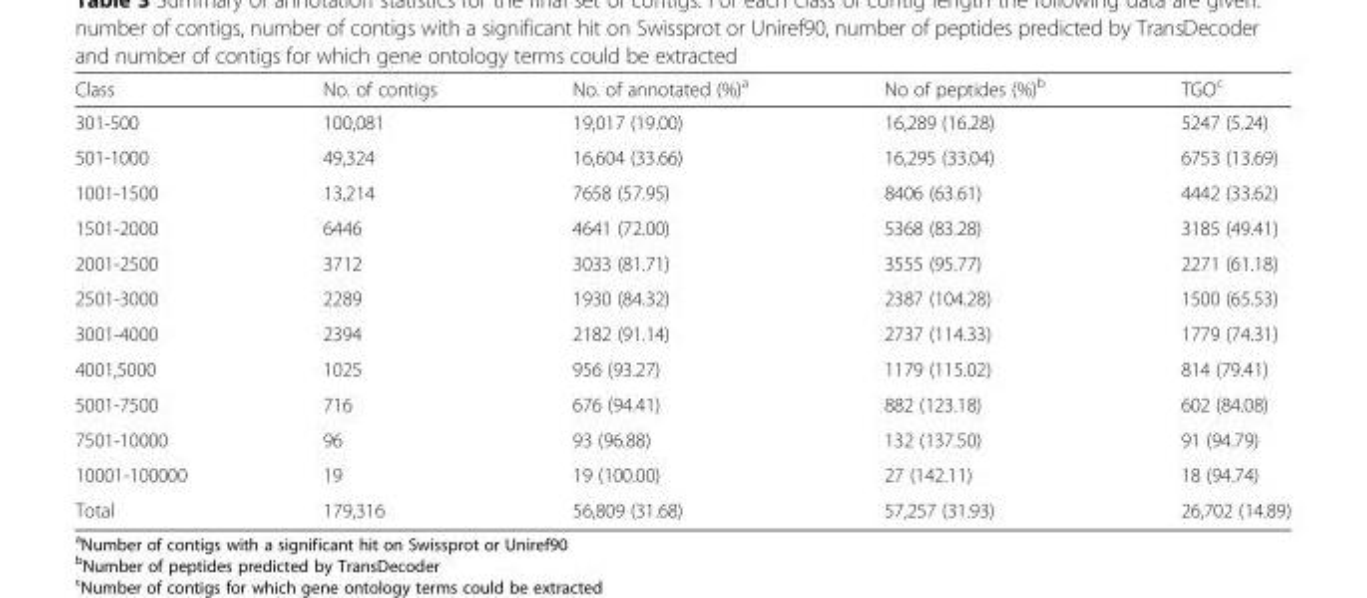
<table><thead><tr><td>Class</td><td>No. of contigs</td><td>No. of annotated (%)<sup>a</sup></td><td>No of peptides (%)<sup>b</sup></td><td>TGO<sup>c</sup></td></tr></thead><tbody><tr><td>301-500</td><td>100,081</td><td>19,017 (19.00)</td><td>16,289 (16.28)</td><td>5247 (5.24)</td></tr><tr><td>501-1000</td><td>49,324</td><td>16,604 (33.66)</td><td>16,295 (33.04)</td><td>6753 (13.69)</td></tr><tr><td>1001-1500</td><td>13,214</td><td>7658 (57.95)</td><td>8406 (63.61)</td><td>4442 (33.62)</td></tr><tr><td>1501-2000</td><td>6446</td><td>4641 (72.00)</td><td>5368 (83.28)</td><td>3185 (49.41)</td></tr><tr><td>2001-2500</td><td>3712</td><td>3033 (81.71)</td><td>3555 (95.77)</td><td>2271 (61.18)</td></tr><tr><td>2501-3000</td><td>2289</td><td>1930 (84.32)</td><td>2387 (104.28)</td><td>1500 (65.53)</td></tr><tr><td>3001-4000</td><td>2394</td><td>2182 (91.14)</td><td>2737 (114.33)</td><td>1779 (74.31)</td></tr><tr><td>4001,5000</td><td>1025</td><td>956 (93.27)</td><td>1179 (115.02)</td><td>814 (79.41)</td></tr><tr><td>5001-7500</td><td>716</td><td>676 (94.41)</td><td>882 (123.18)</td><td>602 (84.08)</td></tr><tr><td>7501-10000</td><td>96</td><td>93 (96.88)</td><td>132 (137.50)</td><td>91 (94.79)</td></tr><tr><td>10001-100000</td><td>19</td><td>19 (100.00)</td><td>27 (142.11)</td><td>18 (94.74)</td></tr><tr><td>Total</td><td>179,316</td><td>56,809 (31.68)</td><td>57,257 (31.93)</td><td>26,702 (14.89)</td></tr></tbody></table>